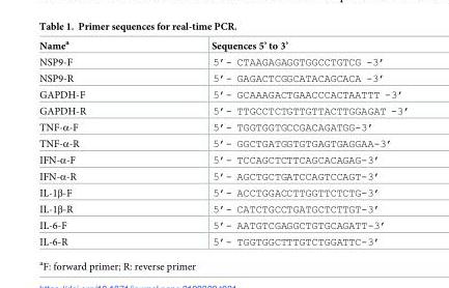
<table><thead><tr><td>Name<sup>a</sup></td><td>Sequences 5’ to 3’</td></tr></thead><tbody><tr><td>NSP9-F</td><td>5’- CTAAGAGAGGTGGCCTGTCG -3’</td></tr><tr><td>NSP9-R</td><td>5’- GAGACTCGGCATACAGCACA -3’</td></tr><tr><td>GAPDH-F</td><td>5’- GCAAAGACTGAACCCACTAATTT -3’</td></tr><tr><td>GAPDH-R</td><td>5’- TTGCCTCTGTTGTTACTTGGAGAT -3’</td></tr><tr><td>TNF-α-F</td><td>5’- TGGTGGTGCCGACAGATGG-3’</td></tr><tr><td>TNF-α-R</td><td>5’- GGCTGATGGTGTGAGTGAGGAA-3’</td></tr><tr><td>IFN-α-F</td><td>5’- TCCAGCTCTTCAGCACAGAG-3’</td></tr><tr><td>IFN-α-R</td><td>5’- AGCTGCTGATCCAGTCCAGT-3’</td></tr><tr><td>IL-1β-F</td><td>5’- ACCTGGACCTTGGTTCTCTG-3’</td></tr><tr><td>IL-1β-R</td><td>5’- CATCTGCCTGATGCTCTTGT-3’</td></tr><tr><td>IL-6-F</td><td>5’- AATGTCGAGGCTGTGCAGATT-3’</td></tr><tr><td>IL-6-R</td><td>5’- TGGTGGCTTTGTCTGGATTC-3’</td></tr></tbody></table>